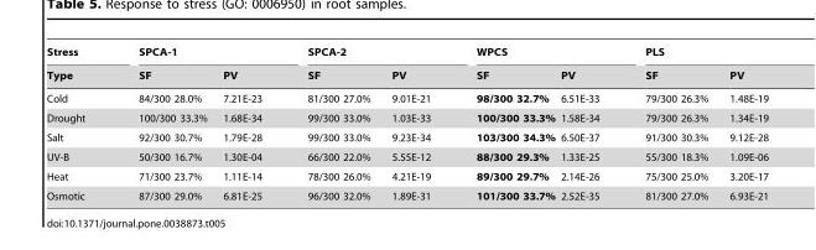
<table><thead><tr><td rowspan="2">Stress Type</td><td colspan="2">SPCA-1</td><td colspan="2">SPCA-2</td><td colspan="2">WPCS</td><td colspan="2">PLS</td></tr><tr><td>SF</td><td>PV</td><td>SF</td><td>PV</td><td>SF</td><td>PV</td><td>SF</td><td>PV</td></tr></thead><tbody><tr><td>Cold</td><td>84/300 28.0%</td><td>7.21E-23</td><td>81/300 27.0%</td><td>9.01E-21</td><td>98/300 32.7%</td><td>6.51E-33</td><td>79/300 26.3%</td><td>1.48E-19</td></tr><tr><td>Drought</td><td>100/300 33.3%</td><td>1.68E-34</td><td>99/300 33.0%</td><td>1.03E-33</td><td>100/300 33.3%</td><td>1.58E-34</td><td>79/300 26.3%</td><td>1.34E-19</td></tr><tr><td>Salt</td><td>92/300 30.7%</td><td>1.79E-28</td><td>99/300 33.0%</td><td>9.23E-34</td><td>103/300 34.3%</td><td>6.50E-37</td><td>91/300 30.3%</td><td>9.12E-28</td></tr><tr><td>UV-B</td><td>50/300 16.7%</td><td>1.30E-04</td><td>66/300 22.0%</td><td>5.55E-12</td><td>88/300 29.3%</td><td>1.33E-25</td><td>55/300 18.3%</td><td>1.09E-06</td></tr><tr><td>Heat</td><td>71/300 23.7%</td><td>1.11E-14</td><td>78/300 26.0%</td><td>4.21E-19</td><td>89/300 29.7%</td><td>2.14E-26</td><td>75/300 25.0%</td><td>3.20E-17</td></tr><tr><td>Osmotic</td><td>87/300 29.0%</td><td>6.81E-25</td><td>96/300 32.0%</td><td>1.89E-31</td><td>101/300 33.7%</td><td>2.52E-35</td><td>81/300 27.0%</td><td>6.93E-21</td></tr></tbody></table>